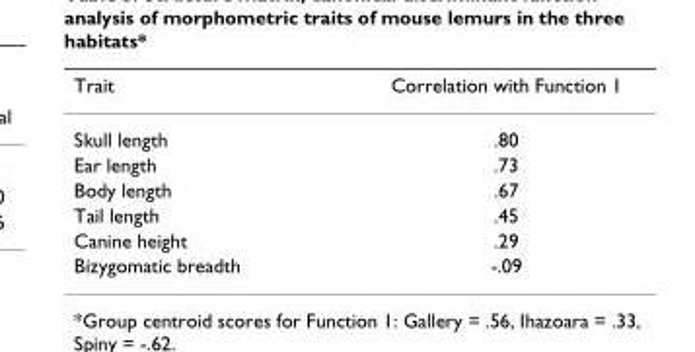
<table><thead><tr><td>Trait</td><td>Correlation with Function 1</td></tr></thead><tbody><tr><td>Skull length</td><td>.80</td></tr><tr><td>Ear length</td><td>.73</td></tr><tr><td>Body length</td><td>.67</td></tr><tr><td>Tail length</td><td>.45</td></tr><tr><td>Canine height</td><td>.29</td></tr><tr><td>Bizygomatic breadth</td><td>-.09</td></tr></tbody></table>